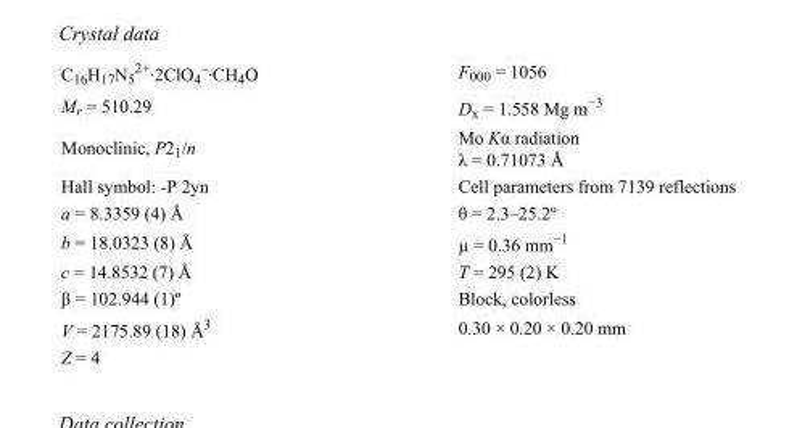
<table><tbody><tr><td>C<sub>16</sub>H<sub>17</sub>N<sub>5</sub> <sup>2+</sup>·2ClO<sub>4</sub> <sup>–</sup>·CH<sub>4</sub>O</td><td>F<sub>000</sub> = 1056</td></tr><tr><td>M<sub>r</sub> = 510.29</td><td>D<sub>x</sub> = 1.558 Mg m<sup>−3</sup></td></tr><tr><td>Monoclinic, P2<sub>1</sub>/n</td><td>Mo Kα radiation λ = 0.71073 Å</td></tr><tr><td>Hall symbol: -P 2yn</td><td>Cell parameters from 7139 reflections</td></tr><tr><td>a = 8.3359 (4) Å</td><td>θ = 2.3–25.2º</td></tr><tr><td>b = 18.0323 (8) Å</td><td>µ = 0.36 mm<sup>−1</sup></td></tr><tr><td>c = 14.8532 (7) Å</td><td>T = 295 (2) K</td></tr><tr><td>β = 102.944 (1)º</td><td>Block, colorless</td></tr><tr><td>V = 2175.89 (18) Å<sup>3</sup></td><td>0.30 × 0.20 × 0.20 mm</td></tr><tr><td>Z = 4</td><td></td></tr></tbody></table>